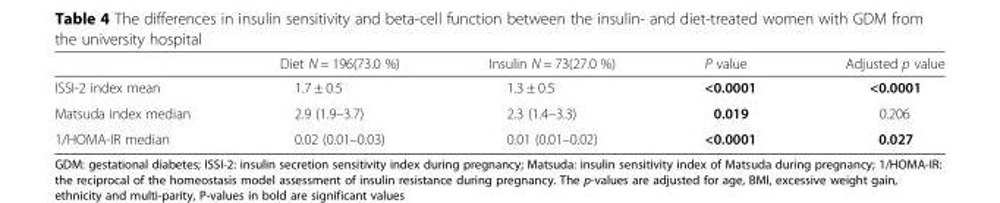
<table><thead><tr><td></td><td>Diet N = 196(73.0 %)</td><td>Insulin N = 73(27.0 %)</td><td>P value</td><td>Adjusted p value</td></tr></thead><tbody><tr><td>ISSI-2 index mean</td><td>1.7 ± 0.5</td><td>1.3 ± 0.5</td><td>&lt;0.0001</td><td>&lt;0.0001</td></tr><tr><td>Matsuda index median</td><td>2.9 (1.9–3.7)</td><td>2.3 (1.4–3.3)</td><td>0.019</td><td>0.206</td></tr><tr><td>1/HOMA-IR median</td><td>0.02 (0.01–0.03)</td><td>0.01 (0.01–0.02)</td><td>&lt;0.0001</td><td>0.027</td></tr></tbody></table>